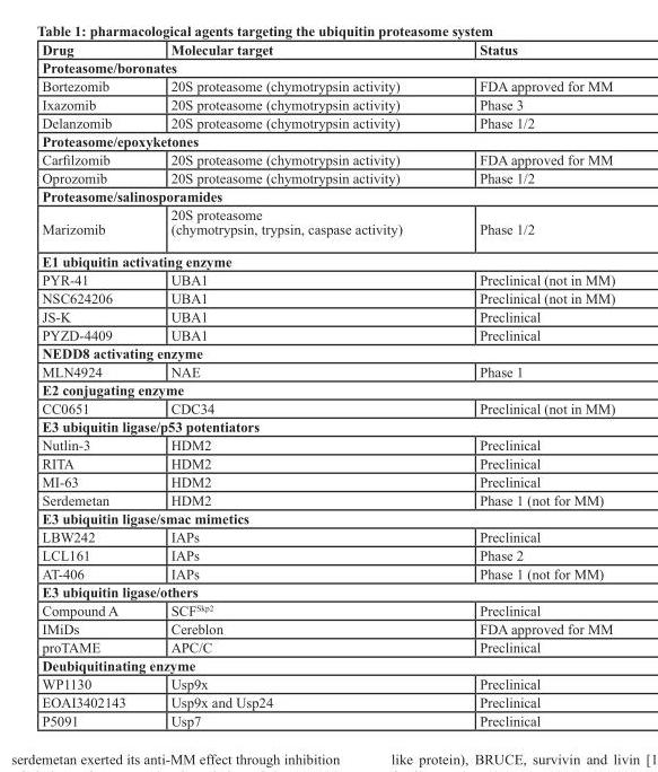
<table><thead><tr><td>Drug</td><td>Molecular target</td><td>Status</td></tr></thead><tbody><tr><td colspan="3">Proteasome/boronates</td></tr><tr><td>Bortezomib</td><td>20S proteasome (chymotrypsin activity)</td><td>FDA approved for MM</td></tr><tr><td>Ixazomib</td><td>20S proteasome (chymotrypsin activity)</td><td>Phase 3</td></tr><tr><td>Delanzomib</td><td>20S proteasome (chymotrypsin activity)</td><td>Phase 1/2</td></tr><tr><td colspan="3">Proteasome/epoxyketones</td></tr><tr><td>Carfilzomib</td><td>20S proteasome (chymotrypsin activity)</td><td>FDA approved for MM</td></tr><tr><td>Oprozomib</td><td>20S proteasome (chymotrypsin activity)</td><td>Phase 1/2</td></tr><tr><td colspan="3">Proteasome/salinosporamides</td></tr><tr><td>Marizomib</td><td>20S proteasome (chymotrypsin, trypsin, caspase activity)</td><td>Phase 1/2</td></tr><tr><td colspan="3">E1 ubiquitin activating enzyme</td></tr><tr><td>PYR-41</td><td>UBA1</td><td>Preclinical (not in MM)</td></tr><tr><td>NSC624206</td><td>UBA1</td><td>Preclinical (not in MM)</td></tr><tr><td>JS-K</td><td>UBA1</td><td>Preclinical</td></tr><tr><td>PYZD-4409</td><td>UBA1</td><td>Preclinical</td></tr><tr><td colspan="3">NEDD8 activating enzyme</td></tr><tr><td>MLN4924</td><td>NAE</td><td>Phase 1</td></tr><tr><td colspan="3">E2 conjugating enzyme</td></tr><tr><td>CC0651</td><td>CDC34</td><td>Preclinical (not in MM)</td></tr><tr><td colspan="3">E3 ubiquitin ligase/p53 potentiators</td></tr><tr><td>Nutlin-3</td><td>HDM2</td><td>Preclinical</td></tr><tr><td>RITA</td><td>HDM2</td><td>Preclinical</td></tr><tr><td>MI-63</td><td>HDM2</td><td>Preclinical</td></tr><tr><td>Serdemetan</td><td>HDM2</td><td>Phase 1 (not for MM)</td></tr><tr><td colspan="3">E3 ubiquitin ligase/smac mimetics</td></tr><tr><td>LBW242</td><td>IAPs</td><td>Preclinical</td></tr><tr><td>LCL161</td><td>IAPs</td><td>Phase 2</td></tr><tr><td>AT-406</td><td>IAPs</td><td>Phase 1 (not for MM)</td></tr><tr><td colspan="3">E3 ubiquitin ligase/others</td></tr><tr><td>Compound A</td><td>SCF<sup>Skp2</sup></td><td>Preclinical</td></tr><tr><td>IMiDs</td><td>Cereblon</td><td>FDA approved for MM</td></tr><tr><td>proTAME</td><td>APC/C</td><td>Preclinical</td></tr><tr><td colspan="3">Deubiquitinating enzyme</td></tr><tr><td>WP1130</td><td>Usp9x</td><td>Preclinical</td></tr><tr><td>EOAI3402143</td><td>Usp9x and Usp24</td><td>Preclinical</td></tr><tr><td>P5091</td><td>Usp7</td><td>Preclinical</td></tr></tbody></table>